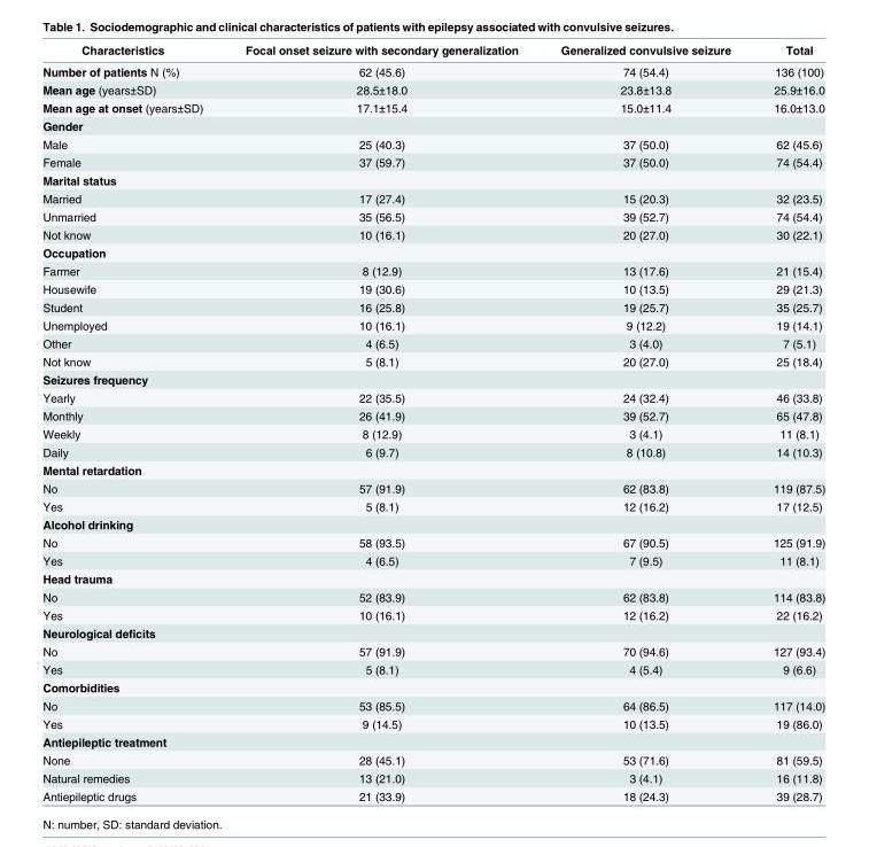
<table><thead><tr><td>Characteristics</td><td>Focal onset seizure with secondary generalization</td><td>Generalized convulsive seizure</td><td>Total</td></tr></thead><tbody><tr><td>Number of patients N (%)</td><td>62 (45.6)</td><td>74 (54.4)</td><td>136 (100)</td></tr><tr><td>Mean age (years±SD)</td><td>28.5±18.0</td><td>23.8±13.8</td><td>25.9±16.0</td></tr><tr><td>Mean age at onset (years±SD)</td><td>17.1±15.4</td><td>15.0±11.4</td><td>16.0±13.0</td></tr><tr><td colspan="4">Gender</td></tr><tr><td>Male</td><td>25 (40.3)</td><td>37 (50.0)</td><td>62 (45.6)</td></tr><tr><td>Female</td><td>37 (59.7)</td><td>37 (50.0)</td><td>74 (54.4)</td></tr><tr><td colspan="4">Marital status</td></tr><tr><td>Married</td><td>17 (27.4)</td><td>15 (20.3)</td><td>32 (23.5)</td></tr><tr><td>Unmarried</td><td>35 (56.5)</td><td>39 (52.7)</td><td>74 (54.4)</td></tr><tr><td>Not know</td><td>10 (16.1)</td><td>20 (27.0)</td><td>30 (22.1)</td></tr><tr><td colspan="4">Occupation</td></tr><tr><td>Farmer</td><td>8 (12.9)</td><td>13 (17.6)</td><td>21 (15.4)</td></tr><tr><td>Housewife</td><td>19 (30.6)</td><td>10 (13.5)</td><td>29 (21.3)</td></tr><tr><td>Student</td><td>16 (25.8)</td><td>19 (25.7)</td><td>35 (25.7)</td></tr><tr><td>Unemployed</td><td>10 (16.1)</td><td>9 (12.2)</td><td>19 (14.1)</td></tr><tr><td>Other</td><td>4 (6.5)</td><td>3 (4.0)</td><td>7 (5.1)</td></tr><tr><td>Not know</td><td>5 (8.1)</td><td>20 (27.0)</td><td>25 (18.4)</td></tr><tr><td colspan="4">Seizures frequency</td></tr><tr><td>Yearly</td><td>22 (35.5)</td><td>24 (32.4)</td><td>46 (33.8)</td></tr><tr><td>Monthly</td><td>26 (41.9)</td><td>39 (52.7)</td><td>65 (47.8)</td></tr><tr><td>Weekly</td><td>8 (12.9)</td><td>3 (4.1)</td><td>11 (8.1)</td></tr><tr><td>Daily</td><td>6 (9.7)</td><td>8 (10.8)</td><td>14 (10.3)</td></tr><tr><td colspan="4">Mental retardation</td></tr><tr><td>No</td><td>57 (91.9)</td><td>62 (83.8)</td><td>119 (87.5)</td></tr><tr><td>Yes</td><td>5 (8.1)</td><td>12 (16.2)</td><td>17 (12.5)</td></tr><tr><td colspan="4">Alcohol drinking</td></tr><tr><td>No</td><td>58 (93.5)</td><td>67 (90.5)</td><td>125 (91.9)</td></tr><tr><td>Yes</td><td>4 (6.5)</td><td>7 (9.5)</td><td>11 (8.1)</td></tr><tr><td colspan="4">Head trauma</td></tr><tr><td>No</td><td>52 (83.9)</td><td>62 (83.8)</td><td>114 (83.8)</td></tr><tr><td>Yes</td><td>10 (16.1)</td><td>12 (16.2)</td><td>22 (16.2)</td></tr><tr><td colspan="4">Neurological deficits</td></tr><tr><td>No</td><td>57 (91.9)</td><td>70 (94.6)</td><td>127 (93.4)</td></tr><tr><td>Yes</td><td>5 (8.1)</td><td>4 (5.4)</td><td>9 (6.6)</td></tr><tr><td colspan="4">Comorbidities</td></tr><tr><td>No</td><td>53 (85.5)</td><td>64 (86.5)</td><td>117 (14.0)</td></tr><tr><td>Yes</td><td>9 (14.5)</td><td>10 (13.5)</td><td>19 (86.0)</td></tr><tr><td colspan="4">Antiepileptic treatment</td></tr><tr><td>None</td><td>28 (45.1)</td><td>53 (71.6)</td><td>81 (59.5)</td></tr><tr><td>Natural remedies</td><td>13 (21.0)</td><td>3 (4.1)</td><td>16 (11.8)</td></tr><tr><td>Antiepileptic drugs</td><td>21 (33.9)</td><td>18 (24.3)</td><td>39 (28.7)</td></tr></tbody></table>